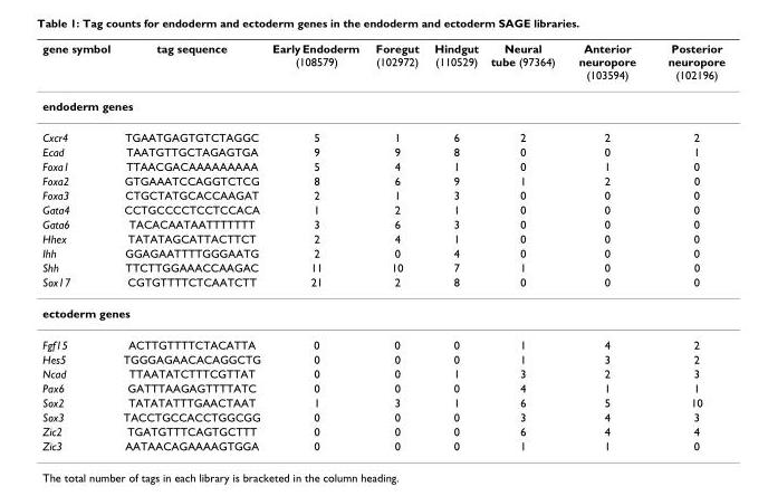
<table><thead><tr><td>gene symbol</td><td>tag sequence</td><td>Early Endoderm (108579)</td><td>Foregut (102972)</td><td>Hindgut (110529)</td><td>Neural tube (97364)</td><td>Anterior neuropore (103594)</td><td>Posterior neuropore (102196)</td></tr></thead><tbody><tr><td colspan="8">endoderm genes</td></tr><tr><td>Cxcr4</td><td>TGAATGAGTGTCTAGGC</td><td>5</td><td>1</td><td>6</td><td>2</td><td>2</td><td>2</td></tr><tr><td>Ecad</td><td>TAATGTTGCTAGAGTGA</td><td>9</td><td>9</td><td>8</td><td>0</td><td>0</td><td>1</td></tr><tr><td>Foxa1</td><td>TTAACGACAAAAAAAAA</td><td>5</td><td>4</td><td>1</td><td>0</td><td>1</td><td>0</td></tr><tr><td>Foxa2</td><td>GTGAAATCCAGGTCTCG</td><td>8</td><td>6</td><td>9</td><td>1</td><td>2</td><td>0</td></tr><tr><td>Foxa3</td><td>CTGCTATGCACCAAGAT</td><td>2</td><td>1</td><td>3</td><td>0</td><td>0</td><td>0</td></tr><tr><td>Gata4</td><td>CCTGCCCCTCCTCCACA</td><td>1</td><td>2</td><td>1</td><td>0</td><td>0</td><td>0</td></tr><tr><td>Gata6</td><td>TACACAATAATTTTTTT</td><td>3</td><td>6</td><td>3</td><td>0</td><td>0</td><td>0</td></tr><tr><td>Hhex</td><td>TATATAGCATTACTTCT</td><td>2</td><td>4</td><td>1</td><td>0</td><td>0</td><td>0</td></tr><tr><td>Ihh</td><td>GGAGAATTTTGGGAATG</td><td>2</td><td>0</td><td>4</td><td>0</td><td>0</td><td>0</td></tr><tr><td>Shh</td><td>TTCTTGGAAACCAAGAC</td><td>11</td><td>10</td><td>7</td><td>1</td><td>0</td><td>0</td></tr><tr><td>Sox17</td><td>CGTGTTTTCTCAATCTT</td><td>21</td><td>2</td><td>8</td><td>0</td><td>0</td><td>0</td></tr><tr><td colspan="8">ectoderm genes</td></tr><tr><td>Fgf15</td><td>ACTTGTTTTCTACATTA</td><td>0</td><td>0</td><td>0</td><td>1</td><td>4</td><td>2</td></tr><tr><td>Hes5</td><td>TGGGAGAACACAGGCTG</td><td>0</td><td>0</td><td>0</td><td>1</td><td>3</td><td>2</td></tr><tr><td>Ncad</td><td>TTAATATCTTTCGTTAT</td><td>0</td><td>0</td><td>1</td><td>3</td><td>2</td><td>3</td></tr><tr><td>Pax6</td><td>GATTTAAGAGTTTTATC</td><td>0</td><td>0</td><td>0</td><td>4</td><td>1</td><td>1</td></tr><tr><td>Sox2</td><td>TATATATTTGAACTAAT</td><td>1</td><td>3</td><td>1</td><td>6</td><td>5</td><td>10</td></tr><tr><td>Sox3</td><td>TACCTGCCACCTGGCGG</td><td>0</td><td>0</td><td>0</td><td>3</td><td>4</td><td>3</td></tr><tr><td>Zic2</td><td>TGATGTTTCAGTGCTTT</td><td>0</td><td>0</td><td>0</td><td>6</td><td>4</td><td>4</td></tr><tr><td>Zic3</td><td>AATAACAGAAAAGTGGA</td><td>0</td><td>0</td><td>0</td><td>1</td><td>1</td><td>0</td></tr></tbody></table>